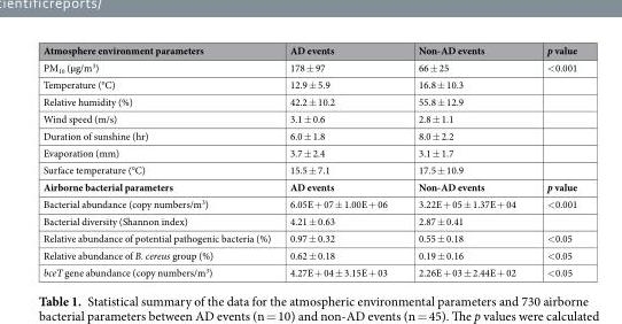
<table><thead><tr><td>Atmosphere environment parameters</td><td>AD events</td><td>Non-AD events</td><td>p value</td></tr></thead><tbody><tr><td>PM<sub>10</sub> (µg/m<sup>3</sup>)</td><td>178 ± 97</td><td>66 ± 25</td><td>&lt;0.001</td></tr><tr><td>Temperature (°C)</td><td>12.9 ± 5.9</td><td>16.8 ± 10.3</td><td></td></tr><tr><td>Relative humidity (%)</td><td>42.2 ± 10.2</td><td>55.8 ± 12.9</td><td></td></tr><tr><td>Wind speed (m/s)</td><td>3.1 ± 0.6</td><td>2.8 ± 1.1</td><td></td></tr><tr><td>Duration of sunshine (hr)</td><td>6.0 ± 1.8</td><td>8.0 ± 2.2</td><td></td></tr><tr><td>Evaporation (mm)</td><td>3.7 ± 2.4</td><td>3.1 ± 1.7</td><td></td></tr><tr><td>Surface temperature (°C)</td><td>15.5 ± 7.1</td><td>17.5 ± 10.9</td><td></td></tr><tr><td>Airborne bacterial parameters</td><td>AD events</td><td>Non-AD events</td><td>p value</td></tr><tr><td>Bacterial abundance (copy numbers/m<sup>3</sup>)</td><td>6.05E + 07 ± 1.00E + 06</td><td>3.22E + 05 ± 1.37E + 04</td><td>&lt;0.001</td></tr><tr><td>Bacterial diversity (Shannon index)</td><td>4.21 ± 0.63</td><td>2.87 ± 0.41</td><td></td></tr><tr><td>Relative abundance of potential pathogenic bacteria (%)</td><td>0.97 ± 0.32</td><td>0.55 ± 0.18</td><td>&lt;0.05</td></tr><tr><td>Relative abundance of B. cereus group (%)</td><td>0.62 ± 0.18</td><td>0.19 ± 0.16</td><td>&lt;0.05</td></tr><tr><td>bceT gene abundance (copy numbers/m<sup>3</sup>)</td><td>4.27E + 04 ± 3.15E + 03</td><td>2.26E + 03 ± 2.44E + 02</td><td>&lt;0.05</td></tr></tbody></table>